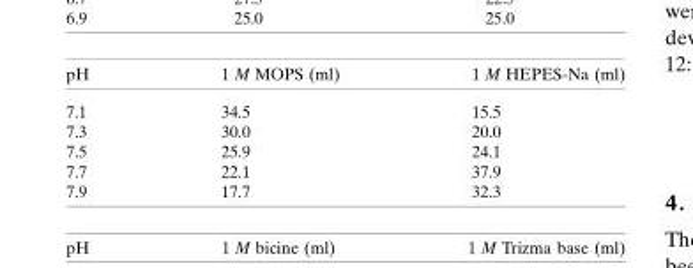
<table><thead><tr><td>pH</td><td>1 M MOPS (ml)</td><td>1 M HEPES-Na (ml)</td></tr></thead><tbody><tr><td>7.1</td><td>34.5</td><td>15.5</td></tr><tr><td>7.3</td><td>30.0</td><td>20.0</td></tr><tr><td>7.5</td><td>25.9</td><td>24.1</td></tr><tr><td>7.7</td><td>22.1</td><td>37.9</td></tr><tr><td>7.9</td><td>17.7</td><td>32.3</td></tr></tbody></table>